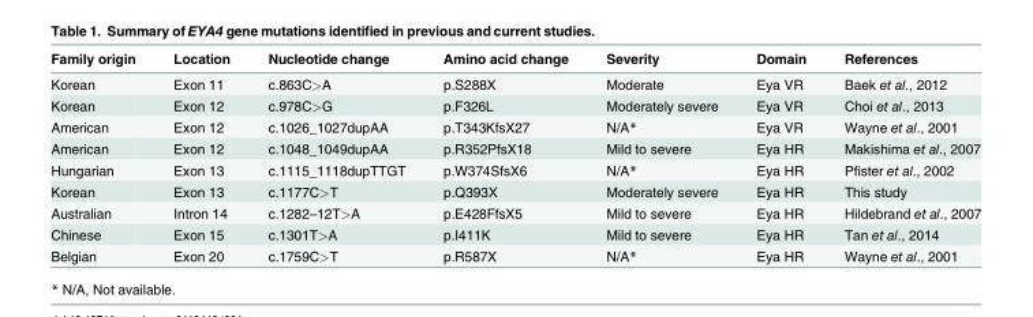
<table><thead><tr><td>Family origin</td><td>Location</td><td>Nucleotide change</td><td>Amino acid change</td><td>Severity</td><td>Domain</td><td>References</td></tr></thead><tbody><tr><td>Korean</td><td>Exon 11</td><td>c.863C&gt;A</td><td>p.S288X</td><td>Moderate</td><td>Eya VR</td><td>Baek et al., 2012</td></tr><tr><td>Korean</td><td>Exon 12</td><td>c.978C&gt;G</td><td>p.F326L</td><td>Moderately severe</td><td>Eya VR</td><td>Choi et al., 2013</td></tr><tr><td>American</td><td>Exon 12</td><td>c.1026_1027dupAA</td><td>p.T343KfsX27</td><td>N/A*</td><td>Eya VR</td><td>Wayne et al., 2001</td></tr><tr><td>American</td><td>Exon 12</td><td>c.1048_1049dupAA</td><td>p.R352PfsX18</td><td>Mild to severe</td><td>Eya HR</td><td>Makishima et al., 2007</td></tr><tr><td>Hungarian</td><td>Exon 13</td><td>c.1115_1118dupTTGT</td><td>p.W374SfsX6</td><td>N/A*</td><td>Eya HR</td><td>Pfister et al., 2002</td></tr><tr><td>Korean</td><td>Exon 13</td><td>c.1177C&gt;T</td><td>p.Q393X</td><td>Moderately severe</td><td>Eya HR</td><td>This study</td></tr><tr><td>Australian</td><td>Intron 14</td><td>c.1282–12T&gt;A</td><td>p.E428FfsX5</td><td>Mild to severe</td><td>Eya HR</td><td>Hildebrand et al., 2007</td></tr><tr><td>Chinese</td><td>Exon 15</td><td>c.1301T&gt;A</td><td>p.I411K</td><td>Mild to severe</td><td>Eya HR</td><td>Tan et al., 2014</td></tr><tr><td>Belgian</td><td>Exon 20</td><td>c.1759C&gt;T</td><td>p.R587X</td><td>N/A*</td><td>Eya HR</td><td>Wayne et al., 2001</td></tr></tbody></table>